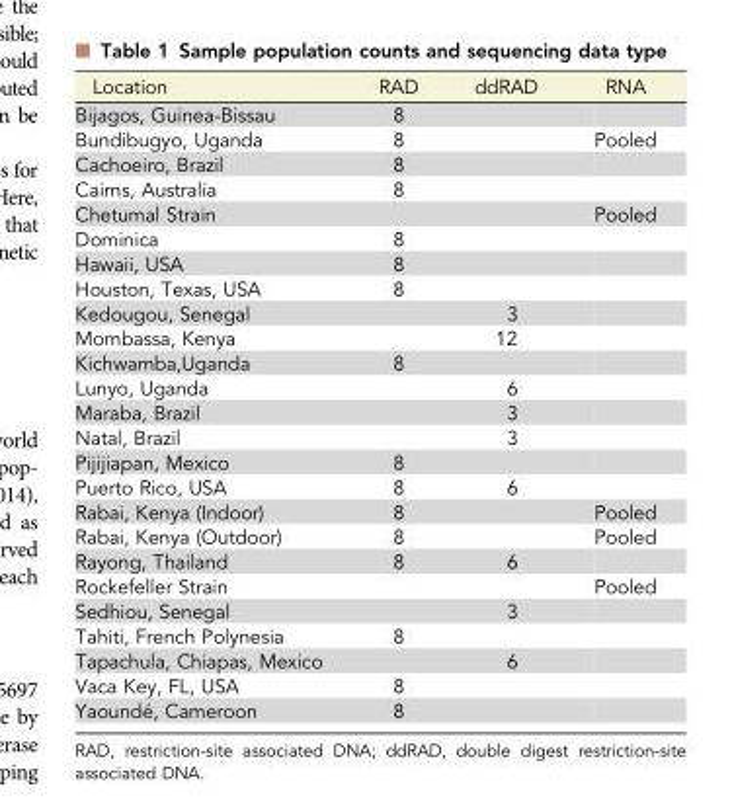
<table><thead><tr><td>Location</td><td>RAD</td><td>ddRAD</td><td>RNA</td></tr></thead><tbody><tr><td>Bijagos, Guinea-Bissau</td><td>8</td><td></td><td></td></tr><tr><td>Bundibugyo, Uganda</td><td>8</td><td></td><td>Pooled</td></tr><tr><td>Cachoeiro, Brazil</td><td>8</td><td></td><td></td></tr><tr><td>Cairns, Australia</td><td>8</td><td></td><td></td></tr><tr><td>Chetumal Strain</td><td></td><td></td><td>Pooled</td></tr><tr><td>Dominica</td><td>8</td><td></td><td></td></tr><tr><td>Hawaii, USA</td><td>8</td><td></td><td></td></tr><tr><td>Houston, Texas, USA</td><td>8</td><td></td><td></td></tr><tr><td>Kedougou, Senegal</td><td></td><td>3</td><td></td></tr><tr><td>Mombassa, Kenya</td><td></td><td>12</td><td></td></tr><tr><td>Kichwamba,Uganda</td><td>8</td><td></td><td></td></tr><tr><td>Lunyo, Uganda</td><td></td><td>6</td><td></td></tr><tr><td>Maraba, Brazil</td><td></td><td>3</td><td></td></tr><tr><td>Natal, Brazil</td><td></td><td>3</td><td></td></tr><tr><td>Pijijiapan, Mexico</td><td>8</td><td></td><td></td></tr><tr><td>Puerto Rico, USA</td><td>8</td><td>6</td><td></td></tr><tr><td>Rabai, Kenya (Indoor)</td><td>8</td><td></td><td>Pooled</td></tr><tr><td>Rabai, Kenya (Outdoor)</td><td>8</td><td></td><td>Pooled</td></tr><tr><td>Rayong, Thailand</td><td>8</td><td>6</td><td></td></tr><tr><td>Rockefeller Strain</td><td></td><td></td><td>Pooled</td></tr><tr><td>Sedhiou, Senegal</td><td></td><td>3</td><td></td></tr><tr><td>Tahiti, French Polynesia</td><td>8</td><td></td><td></td></tr><tr><td>Tapachula, Chiapas, Mexico</td><td></td><td>6</td><td></td></tr><tr><td>Vaca Key, FL, USA</td><td>8</td><td></td><td></td></tr><tr><td>Yaoundé, Cameroon</td><td>8</td><td></td><td></td></tr></tbody></table>